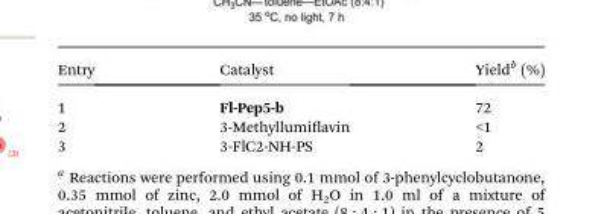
<table><thead><tr><td>Entry</td><td>Catalyst</td><td>Yield<sup>b</sup> (%)</td></tr></thead><tbody><tr><td>1</td><td>Fl-Pep5-b</td><td>72</td></tr><tr><td>2</td><td>3-Methyllumiavin</td><td>&lt;1</td></tr><tr><td>3</td><td>3-FlC2-NH-PS</td><td>2</td></tr></tbody></table>